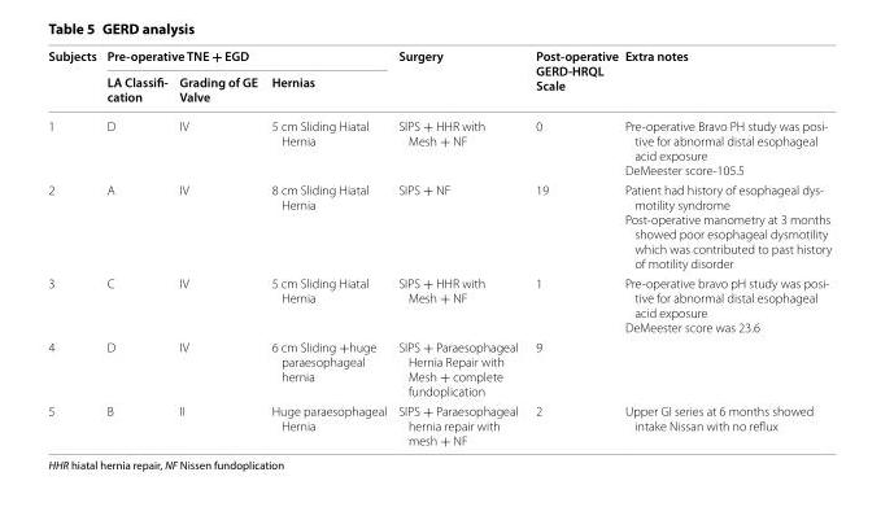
<table><thead><tr><td rowspan="2">Subjects</td><td colspan="3">Pre-operative TNE + EGD</td><td rowspan="2">Surgery</td><td rowspan="2">Post-operative GERD-HRQL Scale</td><td rowspan="2">Extra notes</td></tr><tr><td>LA Classifi- cation</td><td>Grading of GE Valve</td><td>Hernias</td></tr></thead><tbody><tr><td>1</td><td>D</td><td>IV</td><td>5 cm Sliding Hiatal Hernia</td><td>SIPS + HHR with Mesh + NF</td><td>0</td><td>Pre-operative Bravo PH study was posi- tive for abnormal distal esophageal acid exposure DeMeester score-105.5</td></tr><tr><td>2</td><td>A</td><td>IV</td><td>8 cm Sliding Hiatal Hernia</td><td>SIPS + NF</td><td>19</td><td>Patient had history of esophageal dys- motility syndrome Post-operative manometry at 3 months showed poor esophageal dysmotility which was contributed to past history of motility disorder</td></tr><tr><td>3</td><td>C</td><td>IV</td><td>5 cm Sliding Hiatal Hernia</td><td>SIPS + HHR with Mesh + NF</td><td>1</td><td>Pre-operative bravo pH study was posi- tive for abnormal distal esophageal acid exposure DeMeester score was 23.6</td></tr><tr><td>4</td><td>D</td><td>IV</td><td>6 cm Sliding +huge paraesophageal hernia</td><td>SIPS + Paraesophageal Hernia Repair with Mesh + complete fundoplication</td><td>9</td><td></td></tr><tr><td>5</td><td>B</td><td>II</td><td>Huge paraesophageal Hernia</td><td>SIPS + Paraesophageal hernia repair with mesh + NF</td><td>2</td><td>Upper GI series at 6 months showed intake Nissan with no reflux</td></tr></tbody></table>